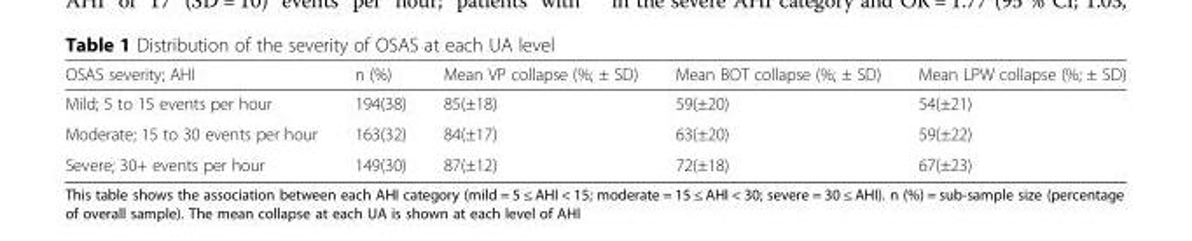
<table><thead><tr><td>OSAS severity; AHI</td><td>n (%)</td><td>Mean VP collapse (%; ± SD)</td><td>Mean BOT collapse (%; ± SD)</td><td>Mean LPW collapse (%; ± SD)</td></tr></thead><tbody><tr><td>Mild; 5 to 15 events per hour</td><td>194(38)</td><td>85(±18)</td><td>59(±20)</td><td>54(±21)</td></tr><tr><td>Moderate; 15 to 30 events per hour</td><td>163(32)</td><td>84(±17)</td><td>63(±20)</td><td>59(±22)</td></tr><tr><td>Severe; 30+ events per hour</td><td>149(30)</td><td>87(±12)</td><td>72(±18)</td><td>67(±23)</td></tr></tbody></table>